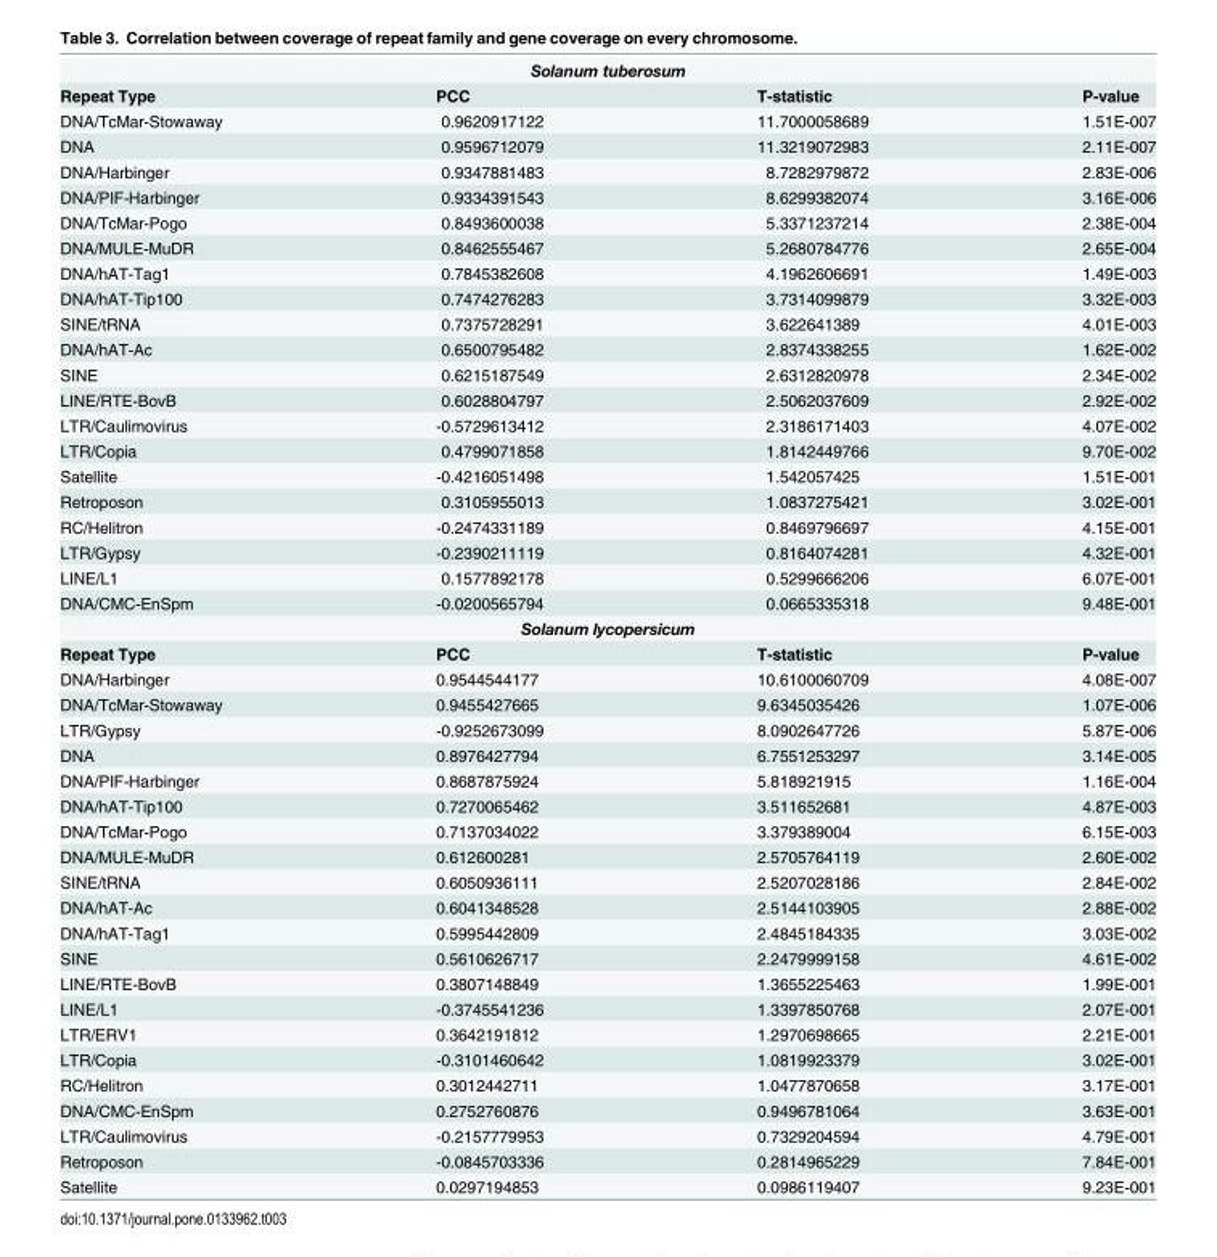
<table><tbody><tr><td colspan="4">Solanum tuberosum</td></tr><tr><td>Repeat Type</td><td>PCC</td><td>T-statistic</td><td>P-value</td></tr><tr><td>DNA/TcMar-Stowaway</td><td>0.9620917122</td><td>11.7000058689</td><td>1.51E-007</td></tr><tr><td>DNA</td><td>0.9596712079</td><td>11.3219072983</td><td>2.11E-007</td></tr><tr><td>DNA/Harbinger</td><td>0.9347881483</td><td>8.7282979872</td><td>2.83E-006</td></tr><tr><td>DNA/PIF-Harbinger</td><td>0.9334391543</td><td>8.6299382074</td><td>3.16E-006</td></tr><tr><td>DNA/TcMar-Pogo</td><td>0.8493600038</td><td>5.3371237214</td><td>2.38E-004</td></tr><tr><td>DNA/MULE-MuDR</td><td>0.8462555467</td><td>5.2680784776</td><td>2.65E-004</td></tr><tr><td>DNA/hAT-Tag1</td><td>0.7845382608</td><td>4.1962606691</td><td>1.49E-003</td></tr><tr><td>DNA/hAT-Tip100</td><td>0.7474276283</td><td>3.7314099879</td><td>3.32E-003</td></tr><tr><td>SINE/tRNA</td><td>0.7375728291</td><td>3.622641389</td><td>4.01E-003</td></tr><tr><td>DNA/hAT-Ac</td><td>0.6500795482</td><td>2.8374338255</td><td>1.62E-002</td></tr><tr><td>SINE</td><td>0.6215187549</td><td>2.6312820978</td><td>2.34E-002</td></tr><tr><td>LINE/RTE-BovB</td><td>0.6028804797</td><td>2.5062037609</td><td>2.92E-002</td></tr><tr><td>LTR/Caulimovirus</td><td>-0.5729613412</td><td>2.3186171403</td><td>4.07E-002</td></tr><tr><td>LTR/Copia</td><td>0.4799071858</td><td>1.8142449766</td><td>9.70E-002</td></tr><tr><td>Satellite</td><td>-0.4216051498</td><td>1.542057425</td><td>1.51E-001</td></tr><tr><td>Retroposon</td><td>0.3105955013</td><td>1.0837275421</td><td>3.02E-001</td></tr><tr><td>RC/Helitron</td><td>-0.2474331189</td><td>0.8469796697</td><td>4.15E-001</td></tr><tr><td>LTR/Gypsy</td><td>-0.2390211119</td><td>0.8164074281</td><td>4.32E-001</td></tr><tr><td>LINE/L1</td><td>0.1577892178</td><td>0.5299666206</td><td>6.07E-001</td></tr><tr><td>DNA/CMC-EnSpm</td><td>-0.0200565794</td><td>0.0665335318</td><td>9.48E-001</td></tr><tr><td colspan="4">Solanum lycopersicum</td></tr><tr><td>Repeat Type</td><td>PCC</td><td>T-statistic</td><td>P-value</td></tr><tr><td>DNA/Harbinger</td><td>0.9544544177</td><td>10.6100060709</td><td>4.08E-007</td></tr><tr><td>DNA/TcMar-Stowaway</td><td>0.9455427665</td><td>9.6345035426</td><td>1.07E-006</td></tr><tr><td>LTR/Gypsy</td><td>-0.9252673099</td><td>8.0902647726</td><td>5.87E-006</td></tr><tr><td>DNA</td><td>0.8976427794</td><td>6.7551253297</td><td>3.14E-005</td></tr><tr><td>DNA/PIF-Harbinger</td><td>0.8687875924</td><td>5.818921915</td><td>1.16E-004</td></tr><tr><td>DNA/hAT-Tip100</td><td>0.7270065462</td><td>3.511652681</td><td>4.87E-003</td></tr><tr><td>DNA/TcMar-Pogo</td><td>0.7137034022</td><td>3.379389004</td><td>6.15E-003</td></tr><tr><td>DNA/MULE-MuDR</td><td>0.612600281</td><td>2.5705764119</td><td>2.60E-002</td></tr><tr><td>SINE/tRNA</td><td>0.6050936111</td><td>2.5207028186</td><td>2.84E-002</td></tr><tr><td>DNA/hAT-Ac</td><td>0.6041348528</td><td>2.5144103905</td><td>2.88E-002</td></tr><tr><td>DNA/hAT-Tag1</td><td>0.5995442809</td><td>2.4845184335</td><td>3.03E-002</td></tr><tr><td>SINE</td><td>0.5610626717</td><td>2.2479999158</td><td>4.61E-002</td></tr><tr><td>LINE/RTE-BovB</td><td>0.3807148849</td><td>1.3655225463</td><td>1.99E-001</td></tr><tr><td>LINE/L1</td><td>-0.3745541236</td><td>1.3397850768</td><td>2.07E-001</td></tr><tr><td>LTR/ERV1</td><td>0.3642191812</td><td>1.2970698665</td><td>2.21E-001</td></tr><tr><td>LTR/Copia</td><td>-0.3101460642</td><td>1.0819923379</td><td>3.02E-001</td></tr><tr><td>RC/Helitron</td><td>0.3012442711</td><td>1.0477870658</td><td>3.17E-001</td></tr><tr><td>DNA/CMC-EnSpm</td><td>0.2752760876</td><td>0.9496781064</td><td>3.63E-001</td></tr><tr><td>LTR/Caulimovirus</td><td>-0.2157779953</td><td>0.7329204594</td><td>4.79E-001</td></tr><tr><td>Retroposon</td><td>-0.0845703336</td><td>0.2814965229</td><td>7.84E-001</td></tr><tr><td>Satellite</td><td>0.0297194853</td><td>0.0986119407</td><td>9.23E-001</td></tr></tbody></table>